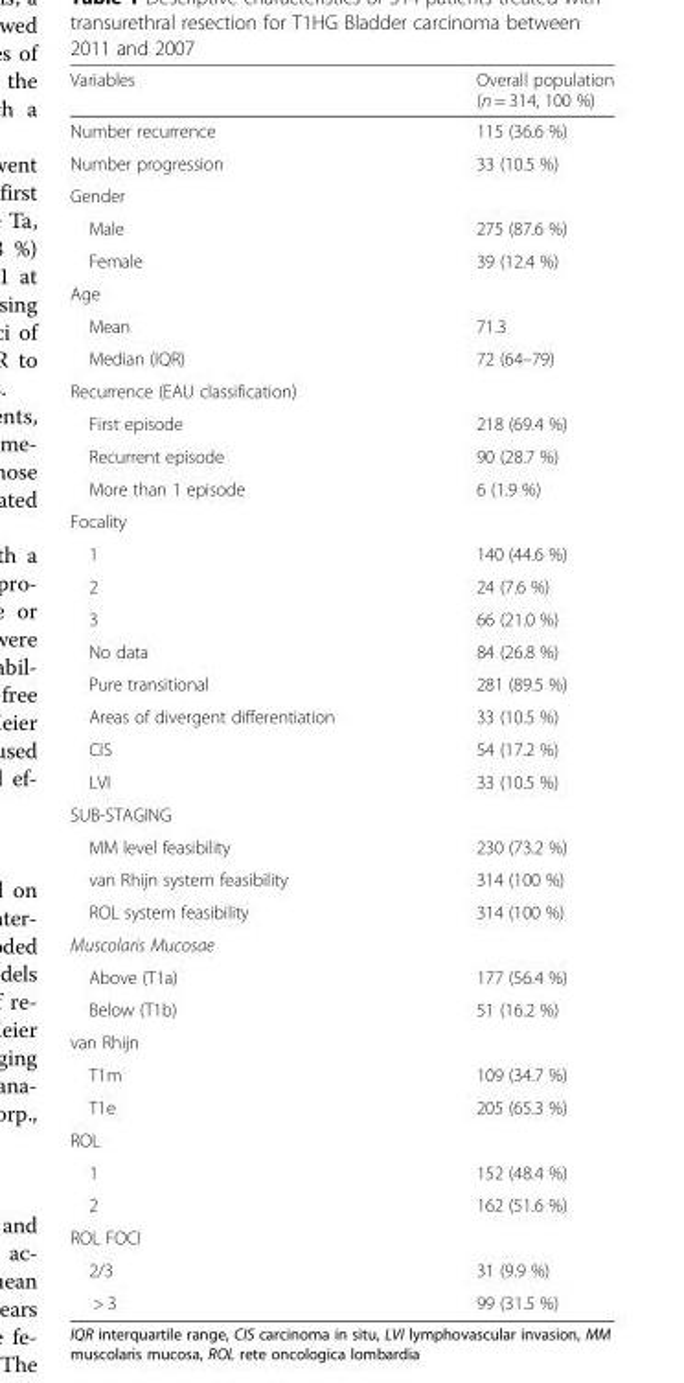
<table><thead><tr><td>Variables</td><td>Overall population (n = 314, 100 %)</td></tr></thead><tbody><tr><td>Number recurrence</td><td>115 (36.6 %)</td></tr><tr><td>Number progression</td><td>33 (10.5 %)</td></tr><tr><td colspan="2">Gender</td></tr><tr><td>Male</td><td>275 (87.6 %)</td></tr><tr><td>Female</td><td>39 (12.4 %)</td></tr><tr><td colspan="2">Age</td></tr><tr><td>Mean</td><td>71.3</td></tr><tr><td>Median (IQR)</td><td>72 (64–79)</td></tr><tr><td colspan="2">Recurrence (EAU classification)</td></tr><tr><td>First episode</td><td>218 (69.4 %)</td></tr><tr><td>Recurrent episode</td><td>90 (28.7 %)</td></tr><tr><td>More than 1 episode</td><td>6 (1.9 %)</td></tr><tr><td colspan="2">Focality</td></tr><tr><td>1</td><td>140 (44.6 %)</td></tr><tr><td>2</td><td>24 (7.6 %)</td></tr><tr><td>3</td><td>66 (21.0 %)</td></tr><tr><td>No data</td><td>84 (26.8 %)</td></tr><tr><td>Pure transitional</td><td>281 (89.5 %)</td></tr><tr><td>Areas of divergent differentiation</td><td>33 (10.5 %)</td></tr><tr><td>CIS</td><td>54 (17.2 %)</td></tr><tr><td>LVI</td><td>33 (10.5 %)</td></tr><tr><td colspan="2">SUB-STAGING</td></tr><tr><td>MM level feasibility</td><td>230 (73.2 %)</td></tr><tr><td>van Rhijn system feasibility</td><td>314 (100 %)</td></tr><tr><td>ROL system feasibility</td><td>314 (100 %)</td></tr><tr><td colspan="2">Muscolaris Mucosae</td></tr><tr><td>Above (T1a)</td><td>177 (56.4 %)</td></tr><tr><td>Below (T1b)</td><td>51 (16.2 %)</td></tr><tr><td colspan="2">van Rhijn</td></tr><tr><td>T1m</td><td>109 (34.7 %)</td></tr><tr><td>T1e</td><td>205 (65.3 %)</td></tr><tr><td colspan="2">ROL</td></tr><tr><td>1</td><td>152 (48.4 %)</td></tr><tr><td>2</td><td>162 (51.6 %)</td></tr><tr><td colspan="2">ROL FOCI</td></tr><tr><td>2/3</td><td>31 (9.9 %)</td></tr><tr><td>&gt; 3</td><td>99 (31.5 %)</td></tr></tbody></table>